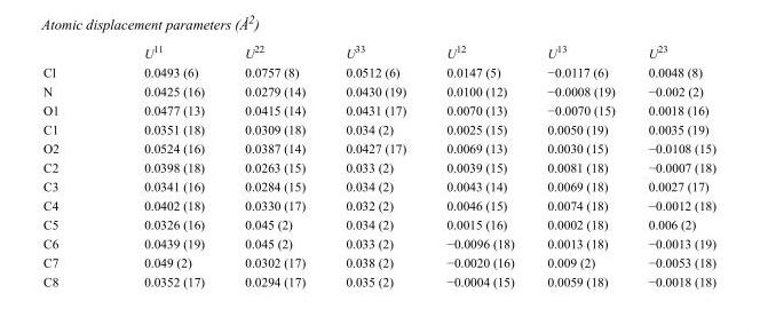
<table><thead><tr><td></td><td>U<sup>11</sup></td><td>U<sup>22</sup></td><td>U<sup>33</sup></td><td>U<sup>12</sup></td><td>U<sup>13</sup></td><td>U<sup>23</sup></td></tr></thead><tbody><tr><td>Cl</td><td>0.0493 (6)</td><td>0.0757 (8)</td><td>0.0512 (6)</td><td>0.0147 (5)</td><td>−0.0117 (6)</td><td>0.0048 (8)</td></tr><tr><td>N</td><td>0.0425 (16)</td><td>0.0279 (14)</td><td>0.0430 (19)</td><td>0.0100 (12)</td><td>−0.0008 (19)</td><td>−0.002 (2)</td></tr><tr><td>O1</td><td>0.0477 (13)</td><td>0.0415 (14)</td><td>0.0431 (17)</td><td>0.0070 (13)</td><td>−0.0070 (15)</td><td>0.0018 (16)</td></tr><tr><td>C1</td><td>0.0351 (18)</td><td>0.0309 (18)</td><td>0.034 (2)</td><td>0.0025 (15)</td><td>0.0050 (19)</td><td>0.0035 (19)</td></tr><tr><td>O2</td><td>0.0524 (16)</td><td>0.0387 (14)</td><td>0.0427 (17)</td><td>0.0069 (13)</td><td>0.0030 (15)</td><td>−0.0108 (15)</td></tr><tr><td>C2</td><td>0.0398 (18)</td><td>0.0263 (15)</td><td>0.033 (2)</td><td>0.0039 (15)</td><td>0.0081 (18)</td><td>−0.0007 (18)</td></tr><tr><td>C3</td><td>0.0341 (16)</td><td>0.0284 (15)</td><td>0.034 (2)</td><td>0.0043 (14)</td><td>0.0069 (18)</td><td>0.0027 (17)</td></tr><tr><td>C4</td><td>0.0402 (18)</td><td>0.0330 (17)</td><td>0.032 (2)</td><td>0.0046 (15)</td><td>0.0074 (18)</td><td>−0.0012 (18)</td></tr><tr><td>C5</td><td>0.0326 (16)</td><td>0.045 (2)</td><td>0.034 (2)</td><td>0.0015 (16)</td><td>0.0002 (18)</td><td>0.006 (2)</td></tr><tr><td>C6</td><td>0.0439 (19)</td><td>0.045 (2)</td><td>0.033 (2)</td><td>−0.0096 (18)</td><td>0.0013 (18)</td><td>−0.0013 (19)</td></tr><tr><td>C7</td><td>0.049 (2)</td><td>0.0302 (17)</td><td>0.038 (2)</td><td>−0.0020 (16)</td><td>0.009 (2)</td><td>−0.0053 (18)</td></tr><tr><td>C8</td><td>0.0352 (17)</td><td>0.0294 (17)</td><td>0.035 (2)</td><td>−0.0004 (15)</td><td>0.0059 (18)</td><td>−0.0018 (18)</td></tr></tbody></table>